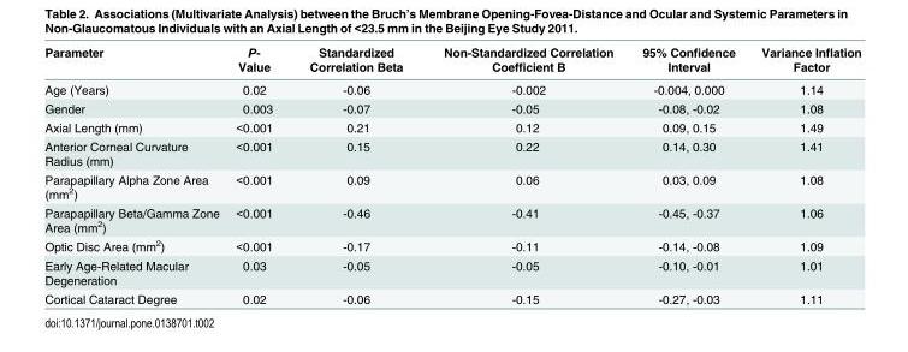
<table><thead><tr><td>Parameter</td><td>P- Value</td><td>Standardized Correlation Beta</td><td>Non-Standardized Correlation Coefficient B</td><td>95% Confidence Interval</td><td>Variance Inflation Factor</td></tr></thead><tbody><tr><td>Age (Years)</td><td>0.02</td><td>-0.06</td><td>-0.002</td><td>-0.004, 0.000</td><td>1.14</td></tr><tr><td>Gender</td><td>0.003</td><td>-0.07</td><td>-0.05</td><td>-0.08, -0.02</td><td>1.08</td></tr><tr><td>Axial Length (mm)</td><td>&lt;0.001</td><td>0.21</td><td>0.12</td><td>0.09, 0.15</td><td>1.49</td></tr><tr><td>Anterior Corneal Curvature Radius (mm)</td><td>&lt;0.001</td><td>0.15</td><td>0.22</td><td>0.14, 0.30</td><td>1.41</td></tr><tr><td>Parapapillary Alpha Zone Area (mm<sup>2</sup>)</td><td>&lt;0.001</td><td>0.09</td><td>0.06</td><td>0.03, 0.09</td><td>1.08</td></tr><tr><td>Parapapillary Beta/Gamma Zone Area (mm<sup>2</sup>)</td><td>&lt;0.001</td><td>-0.46</td><td>-0.41</td><td>-0.45, -0.37</td><td>1.06</td></tr><tr><td>Optic Disc Area (mm<sup>2</sup>)</td><td>&lt;0.001</td><td>-0.17</td><td>-0.11</td><td>-0.14, -0.08</td><td>1.09</td></tr><tr><td>Early Age-Related Macular Degeneration</td><td>0.03</td><td>-0.05</td><td>-0.05</td><td>-0.10, -0.01</td><td>1.01</td></tr><tr><td>Cortical Cataract Degree</td><td>0.02</td><td>-0.06</td><td>-0.15</td><td>-0.27, -0.03</td><td>1.11</td></tr></tbody></table>